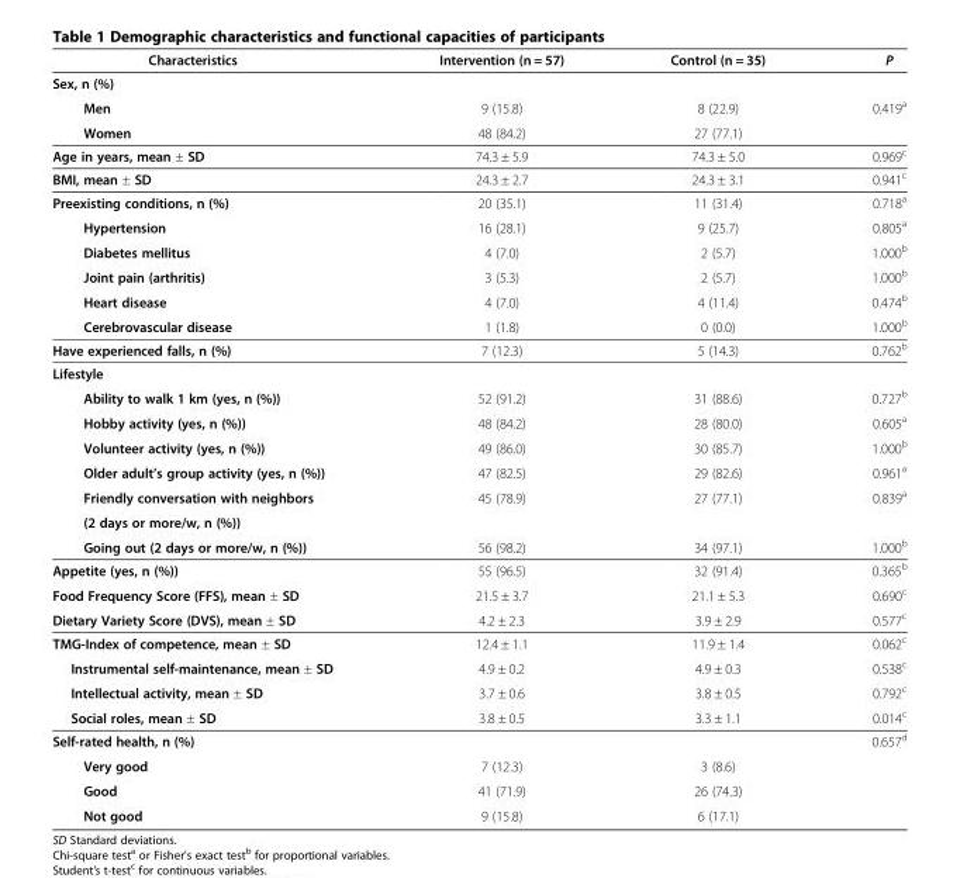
<table><thead><tr><td>Characteristics</td><td>Intervention (n = 57)</td><td>Control (n = 35)</td><td>P</td></tr></thead><tbody><tr><td colspan="4">Sex, n (%)</td></tr><tr><td>Men</td><td>9 (15.8)</td><td>8 (22.9)</td><td>0.419<sup>a</sup></td></tr><tr><td>Women</td><td>48 (84.2)</td><td>27 (77.1)</td><td></td></tr><tr><td>Age in years, mean ± SD</td><td>74.3 ± 5.9</td><td>74.3 ± 5.0</td><td>0.969<sup>c</sup></td></tr><tr><td>BMI, mean ± SD</td><td>24.3 ± 2.7</td><td>24.3 ± 3.1</td><td>0.941<sup>c</sup></td></tr><tr><td>Preexisting conditions, n (%)</td><td>20 (35.1)</td><td>11 (31.4)</td><td>0.718<sup>a</sup></td></tr><tr><td>Hypertension</td><td>16 (28.1)</td><td>9 (25.7)</td><td>0.805<sup>a</sup></td></tr><tr><td>Diabetes mellitus</td><td>4 (7.0)</td><td>2 (5.7)</td><td>1.000<sup>b</sup></td></tr><tr><td>Joint pain (arthritis)</td><td>3 (5.3)</td><td>2 (5.7)</td><td>1.000<sup>b</sup></td></tr><tr><td>Heart disease</td><td>4 (7.0)</td><td>4 (11.4)</td><td>0.474<sup>b</sup></td></tr><tr><td>Cerebrovascular disease</td><td>1 (1.8)</td><td>0 (0.0)</td><td>1.000<sup>b</sup></td></tr><tr><td>Have experienced falls, n (%)</td><td>7 (12.3)</td><td>5 (14.3)</td><td>0.762<sup>b</sup></td></tr><tr><td colspan="4">Lifestyle</td></tr><tr><td>Ability to walk 1 km (yes, n (%))</td><td>52 (91.2)</td><td>31 (88.6)</td><td>0.727<sup>b</sup></td></tr><tr><td>Hobby activity (yes, n (%))</td><td>48 (84.2)</td><td>28 (80.0)</td><td>0.605<sup>a</sup></td></tr><tr><td>Volunteer activity (yes, n (%))</td><td>49 (86.0)</td><td>30 (85.7)</td><td>1.000<sup>b</sup></td></tr><tr><td>Older adult’s group activity (yes, n (%))</td><td>47 (82.5)</td><td>29 (82.6)</td><td>0.961<sup>a</sup></td></tr><tr><td>Friendly conversation with neighbors</td><td>45 (78.9)</td><td>27 (77.1)</td><td>0.839<sup>a</sup></td></tr><tr><td colspan="4">(2 days or more/w, n (%))</td></tr><tr><td>Going out (2 days or more/w, n (%))</td><td>56 (98.2)</td><td>34 (97.1)</td><td>1.000<sup>b</sup></td></tr><tr><td>Appetite (yes, n (%))</td><td>55 (96.5)</td><td>32 (91.4)</td><td>0.365<sup>b</sup></td></tr><tr><td>Food Frequency Score (FFS), mean ± SD</td><td>21.5 ± 3.7</td><td>21.1 ± 5.3</td><td>0.690<sup>c</sup></td></tr><tr><td>Dietary Variety Score (DVS), mean ± SD</td><td>4.2 ± 2.3</td><td>3.9 ± 2.9</td><td>0.577<sup>c</sup></td></tr><tr><td>TMG-Index of competence, mean ± SD</td><td>12.4 ± 1.1</td><td>11.9 ± 1.4</td><td>0.062<sup>c</sup></td></tr><tr><td>Instrumental self-maintenance, mean ± SD</td><td>4.9 ± 0.2</td><td>4.9 ± 0.3</td><td>0.538<sup>c</sup></td></tr><tr><td>Intellectual activity, mean ± SD</td><td>3.7 ± 0.6</td><td>3.8 ± 0.5</td><td>0.792<sup>c</sup></td></tr><tr><td>Social roles, mean ± SD</td><td>3.8 ± 0.5</td><td>3.3 ± 1.1</td><td>0.014<sup>c</sup></td></tr><tr><td>Self-rated health, n (%)</td><td></td><td></td><td>0.657<sup>d</sup></td></tr><tr><td>Very good</td><td>7 (12.3)</td><td>3 (8.6)</td><td></td></tr><tr><td>Good</td><td>41 (71.9)</td><td>26 (74.3)</td><td></td></tr><tr><td>Not good</td><td>9 (15.8)</td><td>6 (17.1)</td><td></td></tr></tbody></table>